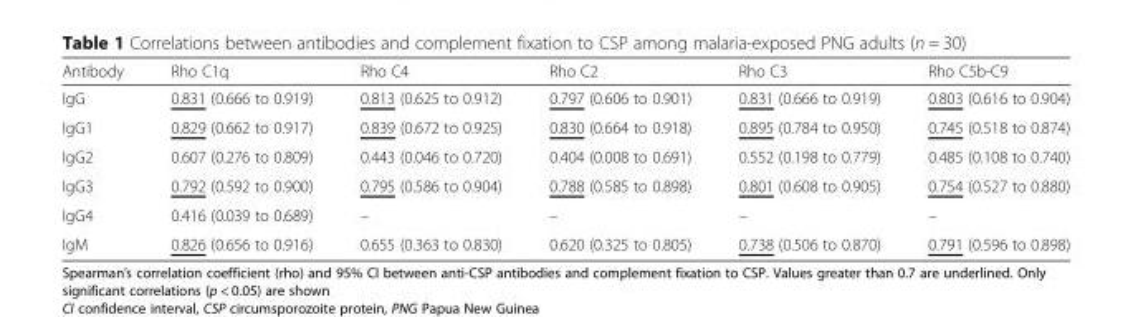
<table><thead><tr><td>Antibody</td><td>Rho C1q</td><td>Rho C4</td><td>Rho C2</td><td>Rho C3</td><td>Rho C5b-C9</td></tr></thead><tbody><tr><td>IgG</td><td>0.831 (0.666 to 0.919)</td><td>0.813 (0.625 to 0.912)</td><td>0.797 (0.606 to 0.901)</td><td>0.831 (0.666 to 0.919)</td><td>0.803 (0.616 to 0.904)</td></tr><tr><td>IgG1</td><td>0.829 (0.662 to 0.917)</td><td>0.839 (0.672 to 0.925)</td><td>0.830 (0.664 to 0.918)</td><td>0.895 (0.784 to 0.950)</td><td>0.745 (0.518 to 0.874)</td></tr><tr><td>IgG2</td><td>0.607 (0.276 to 0.809)</td><td>0.443 (0.046 to 0.720)</td><td>0.404 (0.008 to 0.691)</td><td>0.552 (0.198 to 0.779)</td><td>0.485 (0.108 to 0.740)</td></tr><tr><td>IgG3</td><td>0.792 (0.592 to 0.900)</td><td>0.795 (0.586 to 0.904)</td><td>0.788 (0.585 to 0.898)</td><td>0.801 (0.608 to 0.905)</td><td>0.754 (0.527 to 0.880)</td></tr><tr><td>IgG4</td><td>0.416 (0.039 to 0.689)</td><td>–</td><td>–</td><td>–</td><td>–</td></tr><tr><td>IgM</td><td>0.826 (0.656 to 0.916)</td><td>0.655 (0.363 to 0.830)</td><td>0.620 (0.325 to 0.805)</td><td>0.738 (0.506 to 0.870)</td><td>0.791 (0.596 to 0.898)</td></tr></tbody></table>